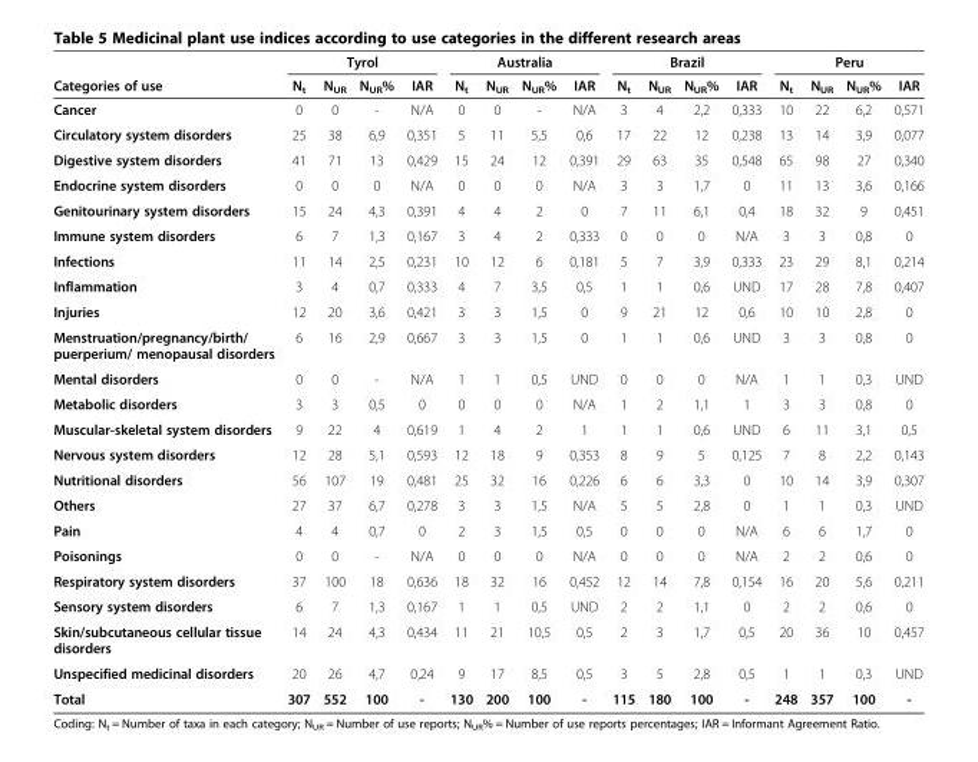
<table><thead><tr><td rowspan="2">Categories of use</td><td colspan="4">Tyrol</td><td colspan="4">Australia</td><td colspan="4">Brazil</td><td colspan="4">Peru</td></tr><tr><td>N<sub>t</sub></td><td>N<sub>UR</sub></td><td>N<sub>UR</sub>%</td><td>IAR</td><td>N<sub>t</sub></td><td>N<sub>UR</sub></td><td>N<sub>UR</sub>%</td><td>IAR</td><td>N<sub>t</sub></td><td>N<sub>UR</sub></td><td>N<sub>UR</sub>%</td><td>IAR</td><td>N<sub>t</sub></td><td>N<sub>UR</sub></td><td>N<sub>UR</sub>%</td><td>IAR</td></tr></thead><tbody><tr><td>Cancer</td><td>0</td><td>0</td><td>-</td><td>N/A</td><td>0</td><td>0</td><td>-</td><td>N/A</td><td>3</td><td>4</td><td>2,2</td><td>0,333</td><td>10</td><td>22</td><td>6,2</td><td>0,571</td></tr><tr><td>Circulatory system disorders</td><td>25</td><td>38</td><td>6,9</td><td>0,351</td><td>5</td><td>11</td><td>5,5</td><td>0,6</td><td>17</td><td>22</td><td>12</td><td>0,238</td><td>13</td><td>14</td><td>3,9</td><td>0,077</td></tr><tr><td>Digestive system disorders</td><td>41</td><td>71</td><td>13</td><td>0,429</td><td>15</td><td>24</td><td>12</td><td>0,391</td><td>29</td><td>63</td><td>35</td><td>0,548</td><td>65</td><td>98</td><td>27</td><td>0,340</td></tr><tr><td>Endocrine system disorders</td><td>0</td><td>0</td><td>0</td><td>N/A</td><td>0</td><td>0</td><td>0</td><td>N/A</td><td>3</td><td>3</td><td>1,7</td><td>0</td><td>11</td><td>13</td><td>3,6</td><td>0,166</td></tr><tr><td>Genitourinary system disorders</td><td>15</td><td>24</td><td>4,3</td><td>0,391</td><td>4</td><td>4</td><td>2</td><td>0</td><td>7</td><td>11</td><td>6,1</td><td>0,4</td><td>18</td><td>32</td><td>9</td><td>0,451</td></tr><tr><td>Immune system disorders</td><td>6</td><td>7</td><td>1,3</td><td>0,167</td><td>3</td><td>4</td><td>2</td><td>0,333</td><td>0</td><td>0</td><td>0</td><td>N/A</td><td>3</td><td>3</td><td>0,8</td><td>0</td></tr><tr><td>Infections</td><td>11</td><td>14</td><td>2,5</td><td>0,231</td><td>10</td><td>12</td><td>6</td><td>0,181</td><td>5</td><td>7</td><td>3,9</td><td>0,333</td><td>23</td><td>29</td><td>8,1</td><td>0,214</td></tr><tr><td>Inflammation</td><td>3</td><td>4</td><td>0,7</td><td>0,333</td><td>4</td><td>7</td><td>3,5</td><td>0,5</td><td>1</td><td>1</td><td>0,6</td><td>UND</td><td>17</td><td>28</td><td>7,8</td><td>0,407</td></tr><tr><td>Injuries</td><td>12</td><td>20</td><td>3,6</td><td>0,421</td><td>3</td><td>3</td><td>1,5</td><td>0</td><td>9</td><td>21</td><td>12</td><td>0,6</td><td>10</td><td>10</td><td>2,8</td><td>0</td></tr><tr><td>Menstruation/pregnancy/birth/ puerperium/ menopausal disorders</td><td>6</td><td>16</td><td>2,9</td><td>0,667</td><td>3</td><td>3</td><td>1,5</td><td>0</td><td>1</td><td>1</td><td>0,6</td><td>UND</td><td>3</td><td>3</td><td>0,8</td><td>0</td></tr><tr><td>Mental disorders</td><td>0</td><td>0</td><td>-</td><td>N/A</td><td>1</td><td>1</td><td>0,5</td><td>UND</td><td>0</td><td>0</td><td>0</td><td>N/A</td><td>1</td><td>1</td><td>0,3</td><td>UND</td></tr><tr><td>Metabolic disorders</td><td>3</td><td>3</td><td>0,5</td><td>0</td><td>0</td><td>0</td><td>0</td><td>N/A</td><td>1</td><td>2</td><td>1,1</td><td>1</td><td>3</td><td>3</td><td>0,8</td><td>0</td></tr><tr><td>Muscular-skeletal system disorders</td><td>9</td><td>22</td><td>4</td><td>0,619</td><td>1</td><td>4</td><td>2</td><td>1</td><td>1</td><td>1</td><td>0,6</td><td>UND</td><td>6</td><td>11</td><td>3,1</td><td>0,5</td></tr><tr><td>Nervous system disorders</td><td>12</td><td>28</td><td>5,1</td><td>0,593</td><td>12</td><td>18</td><td>9</td><td>0,353</td><td>8</td><td>9</td><td>5</td><td>0,125</td><td>7</td><td>8</td><td>2,2</td><td>0,143</td></tr><tr><td>Nutritional disorders</td><td>56</td><td>107</td><td>19</td><td>0,481</td><td>25</td><td>32</td><td>16</td><td>0,226</td><td>6</td><td>6</td><td>3,3</td><td>0</td><td>10</td><td>14</td><td>3,9</td><td>0,307</td></tr><tr><td>Others</td><td>27</td><td>37</td><td>6,7</td><td>0,278</td><td>3</td><td>3</td><td>1,5</td><td>N/A</td><td>5</td><td>5</td><td>2,8</td><td>0</td><td>1</td><td>1</td><td>0,3</td><td>UND</td></tr><tr><td>Pain</td><td>4</td><td>4</td><td>0,7</td><td>0</td><td>2</td><td>3</td><td>1,5</td><td>0,5</td><td>0</td><td>0</td><td>0</td><td>N/A</td><td>6</td><td>6</td><td>1,7</td><td>0</td></tr><tr><td>Poisonings</td><td>0</td><td>0</td><td>-</td><td>N/A</td><td>0</td><td>0</td><td>0</td><td>N/A</td><td>0</td><td>0</td><td>0</td><td>N/A</td><td>2</td><td>2</td><td>0,6</td><td>0</td></tr><tr><td>Respiratory system disorders</td><td>37</td><td>100</td><td>18</td><td>0,636</td><td>18</td><td>32</td><td>16</td><td>0,452</td><td>12</td><td>14</td><td>7,8</td><td>0,154</td><td>16</td><td>20</td><td>5,6</td><td>0,211</td></tr><tr><td>Sensory system disorders</td><td>6</td><td>7</td><td>1,3</td><td>0,167</td><td>1</td><td>1</td><td>0,5</td><td>UND</td><td>2</td><td>2</td><td>1,1</td><td>0</td><td>2</td><td>2</td><td>0,6</td><td>0</td></tr><tr><td>Skin/subcutaneous cellular tissue disorders</td><td>14</td><td>24</td><td>4,3</td><td>0,434</td><td>11</td><td>21</td><td>10,5</td><td>0,5</td><td>2</td><td>3</td><td>1,7</td><td>0,5</td><td>20</td><td>36</td><td>10</td><td>0,457</td></tr><tr><td>Unspecified medicinal disorders</td><td>20</td><td>26</td><td>4,7</td><td>0,24</td><td>9</td><td>17</td><td>8,5</td><td>0,5</td><td>3</td><td>5</td><td>2,8</td><td>0,5</td><td>1</td><td>1</td><td>0,3</td><td>UND</td></tr><tr><td>Total</td><td>307</td><td>552</td><td>100</td><td>-</td><td>130</td><td>200</td><td>100</td><td>-</td><td>115</td><td>180</td><td>100</td><td>-</td><td>248</td><td>357</td><td>100</td><td>-</td></tr></tbody></table>